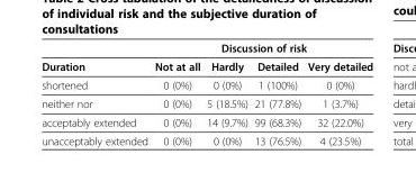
<table><thead><tr><td rowspan="2">Duration</td><td colspan="4">Discussion of risk</td></tr><tr><td>Not at all</td><td>Hardly</td><td>Detailed</td><td>Very detailed</td></tr></thead><tbody><tr><td>shortened</td><td>0 (0%)</td><td>0 (0%)</td><td>1 (100%)</td><td>0 (0%)</td></tr><tr><td>neither nor</td><td>0 (0%)</td><td>5 (18.5%)</td><td>21 (77.8%)</td><td>1 (3.7%)</td></tr><tr><td>acceptably extended</td><td>0 (0%)</td><td>14 (9.7%)</td><td>99 (68.3%)</td><td>32 (22.0%)</td></tr><tr><td>unacceptably extended</td><td>0 (0%)</td><td>0 (0%)</td><td>13 (76.5%)</td><td>4 (23.5%)</td></tr></tbody></table>